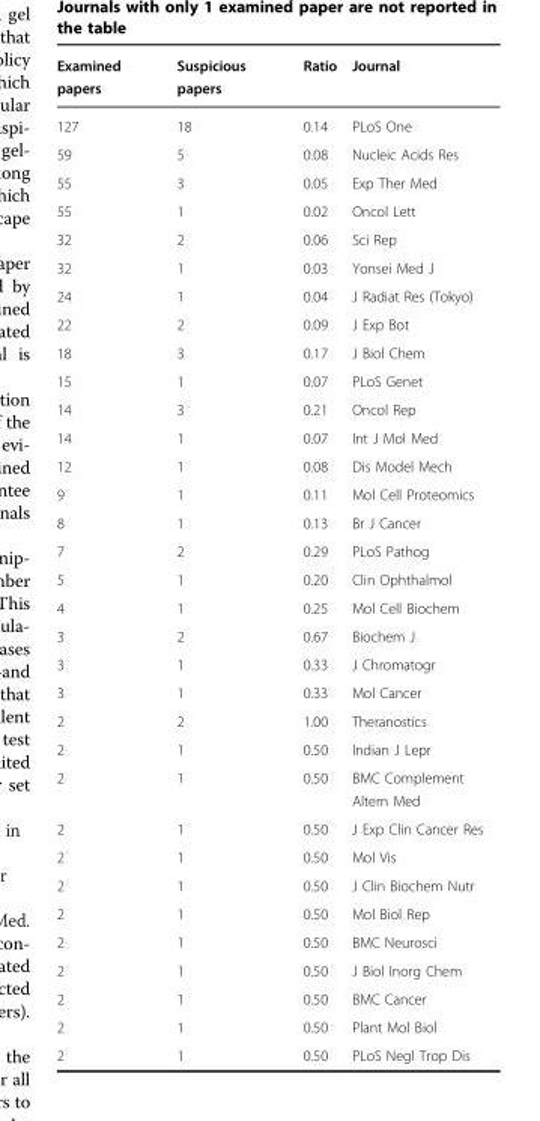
<table><thead><tr><td>Examined papers</td><td>Suspicious papers</td><td>Ratio</td><td>Journal</td></tr></thead><tbody><tr><td>127</td><td>18</td><td>0.14</td><td>PLoS One</td></tr><tr><td>59</td><td>5</td><td>0.08</td><td>Nucleic Acids Res</td></tr><tr><td>55</td><td>3</td><td>0.05</td><td>Exp Ther Med</td></tr><tr><td>55</td><td>1</td><td>0.02</td><td>Oncol Lett</td></tr><tr><td>32</td><td>2</td><td>0.06</td><td>Sci Rep</td></tr><tr><td>32</td><td>1</td><td>0.03</td><td>Yonsei Med J</td></tr><tr><td>24</td><td>1</td><td>0.04</td><td>J Radiat Res (Tokyo)</td></tr><tr><td>22</td><td>2</td><td>0.09</td><td>J Exp Bot</td></tr><tr><td>18</td><td>3</td><td>0.17</td><td>J Biol Chem</td></tr><tr><td>15</td><td>1</td><td>0.07</td><td>PLoS Genet</td></tr><tr><td>14</td><td>3</td><td>0.21</td><td>Oncol Rep</td></tr><tr><td>14</td><td>1</td><td>0.07</td><td>Int J Mol Med</td></tr><tr><td>12</td><td>1</td><td>0.08</td><td>Dis Model Mech</td></tr><tr><td>9</td><td>1</td><td>0.11</td><td>Mol Cell Proteomics</td></tr><tr><td>8</td><td>1</td><td>0.13</td><td>Br J Cancer</td></tr><tr><td>7</td><td>2</td><td>0.29</td><td>PLoS Pathog</td></tr><tr><td>5</td><td>1</td><td>0.20</td><td>Clin Ophthalmol</td></tr><tr><td>4</td><td>1</td><td>0.25</td><td>Mol Cell Biochem</td></tr><tr><td>3</td><td>2</td><td>0.67</td><td>Biochem J</td></tr><tr><td>3</td><td>1</td><td>0.33</td><td>J Chromatogr</td></tr><tr><td>3</td><td>1</td><td>0.33</td><td>Mol Cancer</td></tr><tr><td>2</td><td>2</td><td>1.00</td><td>Theranostics</td></tr><tr><td>2</td><td>1</td><td>0.50</td><td>Indian J Lepr</td></tr><tr><td>2</td><td>1</td><td>0.50</td><td>BMC Complement Altern Med</td></tr><tr><td>2</td><td>1</td><td>0.50</td><td>J Exp Clin Cancer Res</td></tr><tr><td>2</td><td>1</td><td>0.50</td><td>Mol Vis</td></tr><tr><td>2</td><td>1</td><td>0.50</td><td>J Clin Biochem Nutr</td></tr><tr><td>2</td><td>1</td><td>0.50</td><td>Mol Biol Rep</td></tr><tr><td>2</td><td>1</td><td>0.50</td><td>BMC Neurosci</td></tr><tr><td>2</td><td>1</td><td>0.50</td><td>J Biol Inorg Chem</td></tr><tr><td>2</td><td>1</td><td>0.50</td><td>BMC Cancer</td></tr><tr><td>2</td><td>1</td><td>0.50</td><td>Plant Mol Biol</td></tr><tr><td>2</td><td>1</td><td>0.50</td><td>PLoS Negl Trop Dis</td></tr></tbody></table>